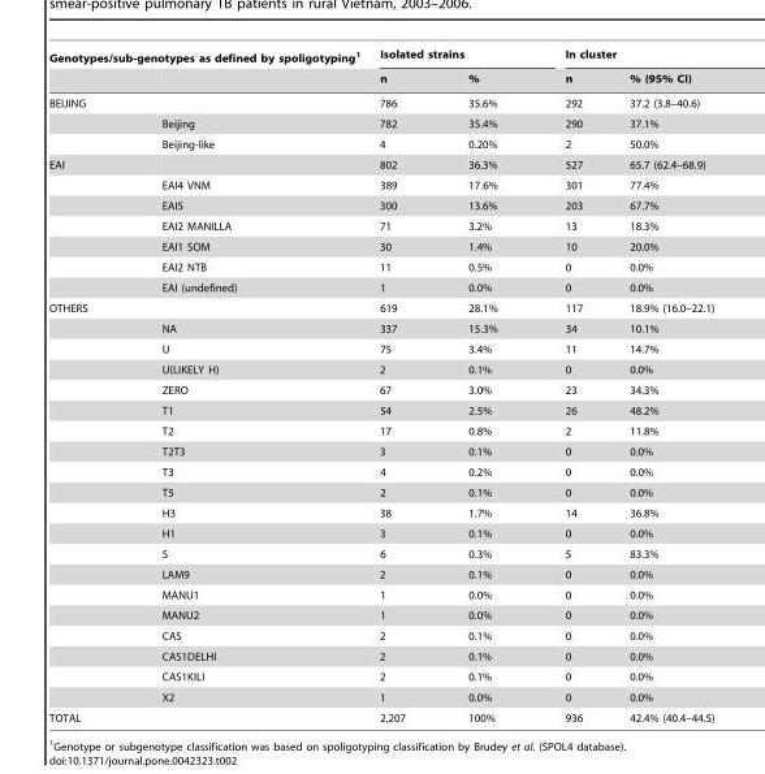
<table><thead><tr><td colspan="2">Genotypes/sub-genotypes as defined by spoligotyping<sup>1</sup></td><td colspan="2">Isolated strains</td><td colspan="2">In cluster</td></tr><tr><td></td><td></td><td>n</td><td>%</td><td>n</td><td>% (95% CI)</td></tr></thead><tbody><tr><td rowspan="3">BEIJING</td><td></td><td>786</td><td>35.6%</td><td>292</td><td>37.2 (3.8–40.6)</td></tr><tr><td>Beijing</td><td>782</td><td>35.4%</td><td>290</td><td>37.1%</td></tr><tr><td>Beijing-like</td><td>4</td><td>0.20%</td><td>2</td><td>50.0%</td></tr><tr><td rowspan="7">EAI</td><td></td><td>802</td><td>36.3%</td><td>527</td><td>65.7 (62.4–68.9)</td></tr><tr><td>EAI4 VNM</td><td>389</td><td>17.6%</td><td>301</td><td>77.4%</td></tr><tr><td>EAI5</td><td>300</td><td>13.6%</td><td>203</td><td>67.7%</td></tr><tr><td>EAI2 MANILLA</td><td>71</td><td>3.2%</td><td>13</td><td>18.3%</td></tr><tr><td>EAI1 SOM</td><td>30</td><td>1.4%</td><td>10</td><td>20.0%</td></tr><tr><td>EAI2 NTB</td><td>11</td><td>0.5%</td><td>0</td><td>0.0%</td></tr><tr><td>EAI (undefined)</td><td>1</td><td>0.0%</td><td>0</td><td>0.0%</td></tr><tr><td rowspan="20">OTHERS</td><td></td><td>619</td><td>28.1%</td><td>117</td><td>18.9% (16.0–22.1)</td></tr><tr><td>NA</td><td>337</td><td>15.3%</td><td>34</td><td>10.1%</td></tr><tr><td>U</td><td>75</td><td>3.4%</td><td>11</td><td>14.7%</td></tr><tr><td>U(LIKELY H)</td><td>2</td><td>0.1%</td><td>0</td><td>0.0%</td></tr><tr><td>ZERO</td><td>67</td><td>3.0%</td><td>23</td><td>34.3%</td></tr><tr><td>T1</td><td>54</td><td>2.5%</td><td>26</td><td>48.2%</td></tr><tr><td>T2</td><td>17</td><td>0.8%</td><td>2</td><td>11.8%</td></tr><tr><td>T2T3</td><td>3</td><td>0.1%</td><td>0</td><td>0.0%</td></tr><tr><td>T3</td><td>4</td><td>0.2%</td><td>0</td><td>0.0%</td></tr><tr><td>T5</td><td>2</td><td>0.1%</td><td>0</td><td>0.0%</td></tr><tr><td>H3</td><td>38</td><td>1.7%</td><td>14</td><td>36.8%</td></tr><tr><td>H1</td><td>3</td><td>0.1%</td><td>0</td><td>0.0%</td></tr><tr><td>S</td><td>6</td><td>0.3%</td><td>5</td><td>83.3%</td></tr><tr><td>LAM9</td><td>2</td><td>0.1%</td><td>0</td><td>0.0%</td></tr><tr><td>MANU1</td><td>1</td><td>0.0%</td><td>0</td><td>0.0%</td></tr><tr><td>MANU2</td><td>1</td><td>0.0%</td><td>0</td><td>0.0%</td></tr><tr><td>CAS</td><td>2</td><td>0.1%</td><td>0</td><td>0.0%</td></tr><tr><td>CAS1DELHI</td><td>2</td><td>0.1%</td><td>0</td><td>0.0%</td></tr><tr><td>CAS1KILI</td><td>2</td><td>0.1%</td><td>0</td><td>0.0%</td></tr><tr><td>X2</td><td>1</td><td>0.0%</td><td>0</td><td>0.0%</td></tr><tr><td>TOTAL</td><td></td><td>2,207</td><td>100%</td><td>936</td><td>42.4% (40.4–44.5)</td></tr></tbody></table>